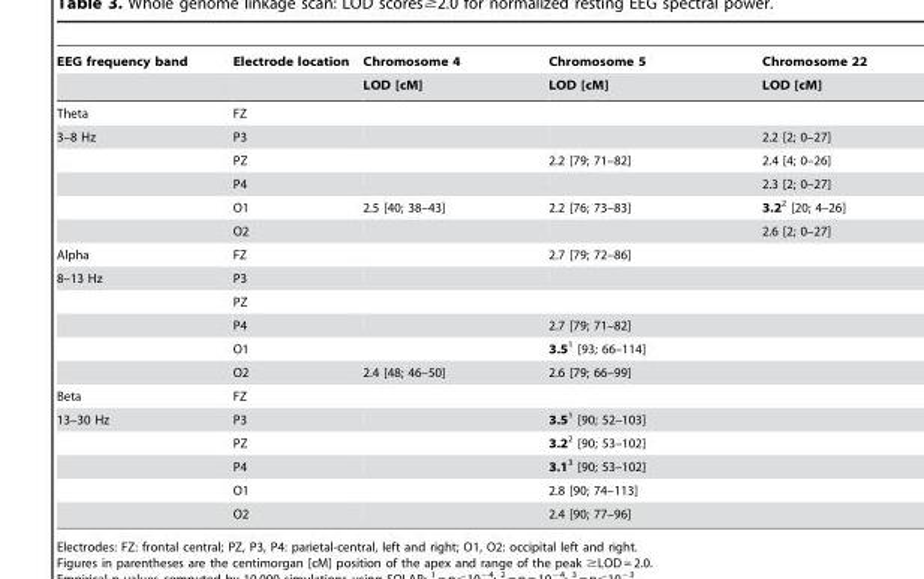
<table><thead><tr><td rowspan="2">EEG frequency band</td><td rowspan="2">Electrode location</td><td rowspan="2">Chromosome 4 LOD [cM]</td><td rowspan="2">Chromosome 5 LOD [cM]</td><td rowspan="2">Chromosome 22 LOD [cM]</td></tr><tr></tr></thead><tbody><tr><td>Theta</td><td>FZ</td><td></td><td></td><td></td></tr><tr><td rowspan="5">3–8 Hz</td><td>P3</td><td></td><td></td><td>2.2 [2; 0–27]</td></tr><tr><td>PZ</td><td></td><td>2.2 [79; 71–82]</td><td>2.4 [4; 0–26]</td></tr><tr><td>P4</td><td></td><td></td><td>2.3 [2; 0–27]</td></tr><tr><td>O1</td><td>2.5 [40; 38–43]</td><td>2.2 [76; 73–83]</td><td>3.2<sup>2</sup> [20; 4–26]</td></tr><tr><td>O2</td><td></td><td></td><td>2.6 [2; 0–27]</td></tr><tr><td>Alpha</td><td>FZ</td><td></td><td>2.7 [79; 72–86]</td><td></td></tr><tr><td rowspan="5">8–13 Hz</td><td>P3</td><td></td><td></td><td></td></tr><tr><td>PZ</td><td></td><td></td><td></td></tr><tr><td>P4</td><td></td><td>2.7 [79; 71–82]</td><td></td></tr><tr><td>O1</td><td></td><td>3.5<sup>1</sup> [93; 66–114]</td><td></td></tr><tr><td>O2</td><td>2.4 [48; 46–50]</td><td>2.6 [79; 66–99]</td><td></td></tr><tr><td>Beta</td><td>FZ</td><td></td><td></td><td></td></tr><tr><td rowspan="5">13–30 Hz</td><td>P3</td><td></td><td>3.5<sup>1</sup> [90; 52–103]</td><td></td></tr><tr><td>PZ</td><td></td><td>3.2<sup>2</sup> [90; 53–102]</td><td></td></tr><tr><td>P4</td><td></td><td>3.1<sup>3</sup> [90; 53–102]</td><td></td></tr><tr><td>O1</td><td></td><td>2.8 [90; 74–113]</td><td></td></tr><tr><td>O2</td><td></td><td>2.4 [90; 77–96]</td><td></td></tr></tbody></table>